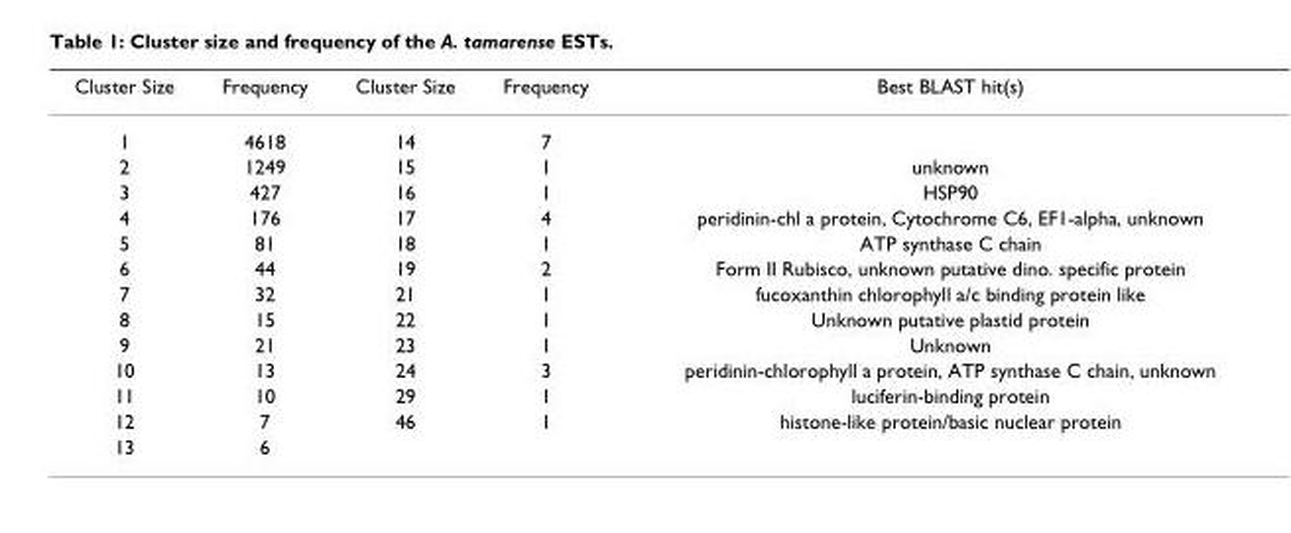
<table><thead><tr><td>Cluster Size</td><td>Frequency</td><td>Cluster Size</td><td>Frequency</td><td>Best BLAST hit(s)</td></tr></thead><tbody><tr><td>1</td><td>4618</td><td>14</td><td>7</td><td></td></tr><tr><td>2</td><td>1249</td><td>15</td><td>1</td><td>unknown</td></tr><tr><td>3</td><td>427</td><td>16</td><td>1</td><td>HSP90</td></tr><tr><td>4</td><td>176</td><td>17</td><td>4</td><td>peridinin-chl a protein, Cytochrome C6, EF1-alpha, unknown</td></tr><tr><td>5</td><td>81</td><td>18</td><td>1</td><td>ATP synthase C chain</td></tr><tr><td>6</td><td>44</td><td>19</td><td>2</td><td>Form II Rubisco, unknown putative dino. specific protein</td></tr><tr><td>7</td><td>32</td><td>21</td><td>1</td><td>fucoxanthin chlorophyll a/c binding protein like</td></tr><tr><td>8</td><td>15</td><td>22</td><td>1</td><td>Unknown putative plastid protein</td></tr><tr><td>9</td><td>21</td><td>23</td><td>1</td><td>Unknown</td></tr><tr><td>10</td><td>13</td><td>24</td><td>3</td><td>peridinin-chlorophyll a protein, ATP synthase C chain, unknown</td></tr><tr><td>11</td><td>10</td><td>29</td><td>1</td><td>luciferin-binding protein</td></tr><tr><td>12</td><td>7</td><td>46</td><td>1</td><td>histone-like protein/basic nuclear protein</td></tr><tr><td>13</td><td>6</td><td></td><td></td><td></td></tr></tbody></table>